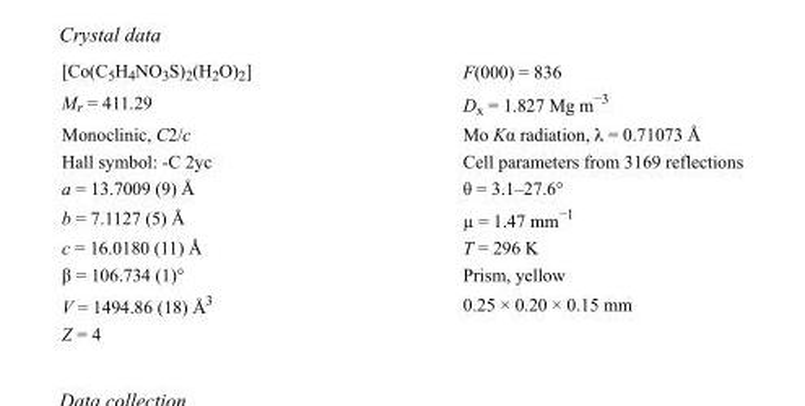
<table><tbody><tr><td>[Co(C<sub>5</sub>H<sub>4</sub>NO<sub>3</sub>S)<sub>2</sub>(H<sub>2</sub>O)<sub>2</sub>]</td><td>F(000) = 836</td></tr><tr><td>M<sub>r</sub> = 411.29</td><td>D<sub>x</sub> = 1.827 Mg m<sup>−3</sup></td></tr><tr><td>Monoclinic, C2/c</td><td>Mo Kα radiation, λ = 0.71073 Å</td></tr><tr><td>Hall symbol: -C 2yc</td><td>Cell parameters from 3169 reflections</td></tr><tr><td>a = 13.7009 (9) Å</td><td>θ = 3.1–27.6°</td></tr><tr><td>b = 7.1127 (5) Å</td><td>µ = 1.47 mm<sup>−1</sup></td></tr><tr><td>c = 16.0180 (11) Å</td><td>T = 296 K</td></tr><tr><td>β = 106.734 (1)°</td><td>Prism, yellow</td></tr><tr><td>V = 1494.86 (18) Å<sup>3</sup></td><td>0.25 × 0.20 × 0.15 mm</td></tr><tr><td>Z = 4</td><td></td></tr></tbody></table>